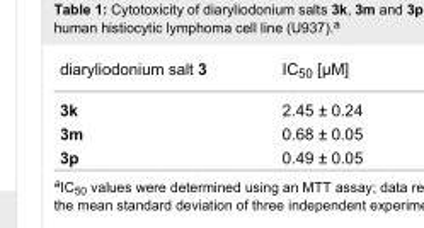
<table><tbody><tr><td>diaryliodonium salt 3</td><td>IC<sub>50</sub> [µM]</td></tr><tr><td>3k</td><td>2.45 ± 0.24</td></tr><tr><td>3m</td><td>0.68 ± 0.05</td></tr><tr><td>3p</td><td>0.49 ± 0.05</td></tr></tbody></table>